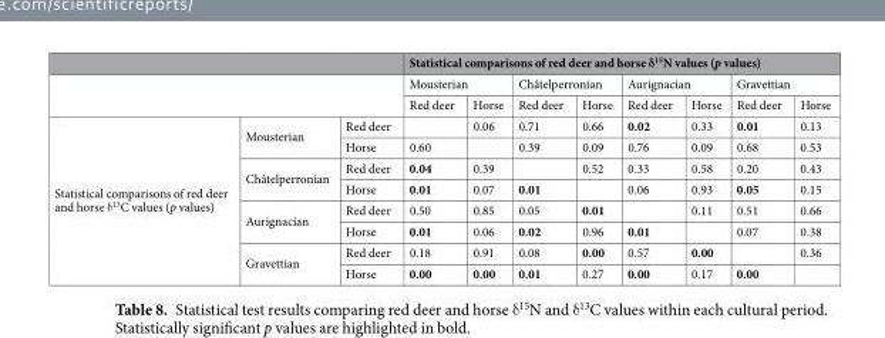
<table><thead><tr><td></td><td></td><td></td><td colspan="8">Statistical comparisons of red deer and horse δ<sup>15</sup>N values (p values)</td></tr><tr><td rowspan="2" colspan="3"></td><td colspan="2">Mousterian</td><td colspan="2">Châtelperronian</td><td colspan="2">Aurignacian</td><td colspan="2">Gravettian</td></tr><tr><td>Red deer</td><td>Horse</td><td>Red deer</td><td>Horse</td><td>Red deer</td><td>Horse</td><td>Red deer</td><td>Horse</td></tr></thead><tbody><tr><td rowspan="8">Statistical comparisons of red deer and horse δ<sup>13</sup>C values (p values)</td><td rowspan="2">Mousterian</td><td>Red deer</td><td></td><td>0.06</td><td>0.71</td><td>0.66</td><td>0.02</td><td>0.33</td><td>0.01</td><td>0.13</td></tr><tr><td>Horse</td><td>0.60</td><td></td><td>0.39</td><td>0.09</td><td>0.76</td><td>0.09</td><td>0.68</td><td>0.53</td></tr><tr><td rowspan="2">Châtelperronian</td><td>Red deer</td><td>0.04</td><td>0.39</td><td></td><td>0.52</td><td>0.33</td><td>0.58</td><td>0.20</td><td>0.43</td></tr><tr><td>Horse</td><td>0.01</td><td>0.07</td><td>0.01</td><td></td><td>0.06</td><td>0.93</td><td>0.05</td><td>0.15</td></tr><tr><td rowspan="2">Aurignacian</td><td>Red deer</td><td>0.50</td><td>0.85</td><td>0.05</td><td>0.01</td><td></td><td>0.11</td><td>0.51</td><td>0.66</td></tr><tr><td>Horse</td><td>0.01</td><td>0.06</td><td>0.02</td><td>0.96</td><td>0.01</td><td></td><td>0.07</td><td>0.38</td></tr><tr><td rowspan="2">Gravettian</td><td>Red deer</td><td>0.18</td><td>0.91</td><td>0.08</td><td>0.00</td><td>0.57</td><td>0.00</td><td></td><td>0.36</td></tr><tr><td>Horse</td><td>0.00</td><td>0.00</td><td>0.01</td><td>0.27</td><td>0.00</td><td>0.17</td><td>0.00</td><td></td></tr></tbody></table>